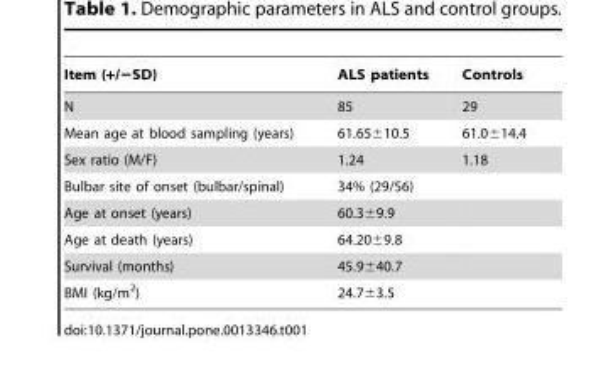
<table><thead><tr><td>Item (+/−SD)</td><td>ALS patients</td><td>Controls</td></tr></thead><tbody><tr><td>N</td><td>85</td><td>29</td></tr><tr><td>Mean age at blood sampling (years)</td><td>61.65±10.5</td><td>61.0±14.4</td></tr><tr><td>Sex ratio (M/F)</td><td>1.24</td><td>1.18</td></tr><tr><td>Bulbar site of onset (bulbar/spinal)</td><td>34% (29/56)</td><td></td></tr><tr><td>Age at onset (years)</td><td>60.3±9.9</td><td></td></tr><tr><td>Age at death (years)</td><td>64.20±9.8</td><td></td></tr><tr><td>Survival (months)</td><td>45.9±40.7</td><td></td></tr><tr><td>BMI (kg/m<sup>2</sup>)</td><td>24.7±3.5</td><td></td></tr></tbody></table>